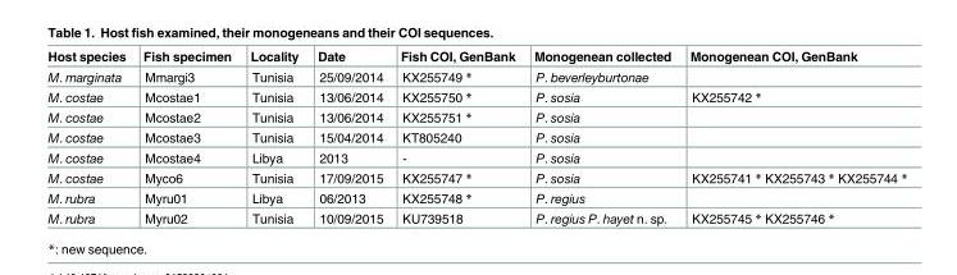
<table><thead><tr><td>Host species</td><td>Fish specimen</td><td>Locality</td><td>Date</td><td>Fish COI, GenBank</td><td>Monogenean collected</td><td>Monogenean COI, GenBank</td></tr></thead><tbody><tr><td>M. marginata</td><td>Mmargi3</td><td>Tunisia</td><td>25/09/2014</td><td>KX255749 *</td><td>P. beverleyburtonae</td><td></td></tr><tr><td>M. costae</td><td>Mcostae1</td><td>Tunisia</td><td>13/06/2014</td><td>KX255750 *</td><td>P. sosia</td><td>KX255742 *</td></tr><tr><td>M. costae</td><td>Mcostae2</td><td>Tunisia</td><td>13/06/2014</td><td>KX255751 *</td><td>P. sosia</td><td></td></tr><tr><td>M. costae</td><td>Mcostae3</td><td>Tunisia</td><td>15/04/2014</td><td>KT805240</td><td>P. sosia</td><td></td></tr><tr><td>M. costae</td><td>Mcostae4</td><td>Libya</td><td>2013</td><td>-</td><td>P. sosia</td><td></td></tr><tr><td>M. costae</td><td>Myco6</td><td>Tunisia</td><td>17/09/2015</td><td>KX255747 *</td><td>P. sosia</td><td>KX255741 * KX255743 * KX255744 *</td></tr><tr><td>M. rubra</td><td>Myru01</td><td>Libya</td><td>06/2013</td><td>KX255748 *</td><td>P. regius</td><td></td></tr><tr><td>M. rubra</td><td>Myru02</td><td>Tunisia</td><td>10/09/2015</td><td>KU739518</td><td>P. regius P. hayet n. sp.</td><td>KX255745 * KX255746 *</td></tr></tbody></table>